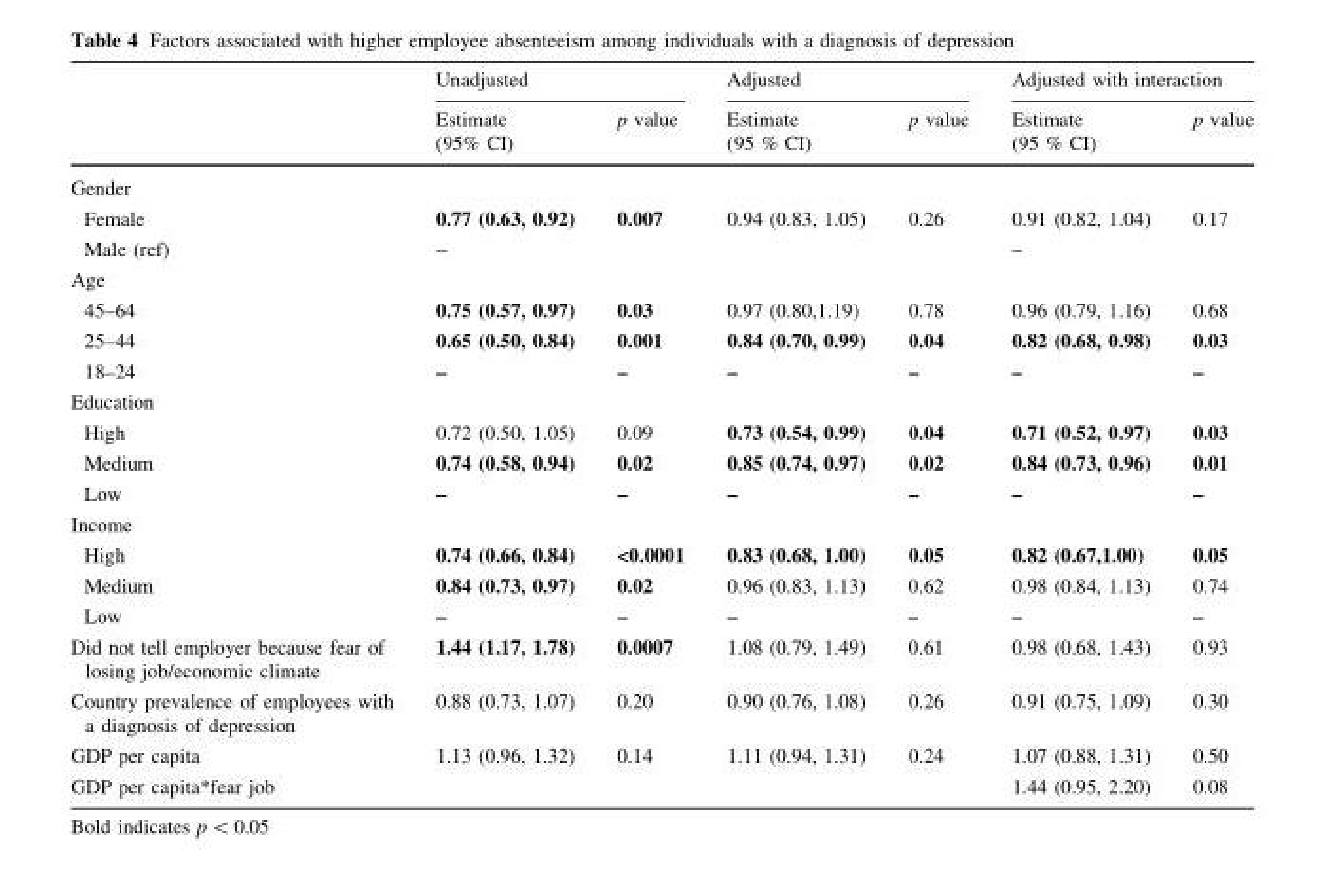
<table><thead><tr><td rowspan="2"></td><td colspan="2">Unadjusted</td><td colspan="2">Adjusted</td><td colspan="2">Adjusted with interaction</td></tr><tr><td>Estimate (95% CI)</td><td>p value</td><td>Estimate (95 % CI)</td><td>p value</td><td>Estimate (95 % CI)</td><td>p value</td></tr></thead><tbody><tr><td colspan="7">Gender</td></tr><tr><td>Female</td><td>0.77 (0.63, 0.92)</td><td>0.007</td><td>0.94 (0.83, 1.05)</td><td>0.26</td><td>0.91 (0.82, 1.04)</td><td>0.17</td></tr><tr><td>Male (ref)</td><td>–</td><td></td><td></td><td></td><td>–</td><td></td></tr><tr><td colspan="7">Age</td></tr><tr><td>45–64</td><td>0.75 (0.57, 0.97)</td><td>0.03</td><td>0.97 (0.80,1.19)</td><td>0.78</td><td>0.96 (0.79, 1.16)</td><td>0.68</td></tr><tr><td>25–44</td><td>0.65 (0.50, 0.84)</td><td>0.001</td><td>0.84 (0.70, 0.99)</td><td>0.04</td><td>0.82 (0.68, 0.98)</td><td>0.03</td></tr><tr><td>18–24</td><td>–</td><td>–</td><td>–</td><td>–</td><td>–</td><td>–</td></tr><tr><td colspan="7">Education</td></tr><tr><td>High</td><td>0.72 (0.50, 1.05)</td><td>0.09</td><td>0.73 (0.54, 0.99)</td><td>0.04</td><td>0.71 (0.52, 0.97)</td><td>0.03</td></tr><tr><td>Medium</td><td>0.74 (0.58, 0.94)</td><td>0.02</td><td>0.85 (0.74, 0.97)</td><td>0.02</td><td>0.84 (0.73, 0.96)</td><td>0.01</td></tr><tr><td>Low</td><td>–</td><td>–</td><td>–</td><td>–</td><td>–</td><td>–</td></tr><tr><td colspan="7">Income</td></tr><tr><td>High</td><td>0.74 (0.66, 0.84)</td><td>&lt;0.0001</td><td>0.83 (0.68, 1.00)</td><td>0.05</td><td>0.82 (0.67,1.00)</td><td>0.05</td></tr><tr><td>Medium</td><td>0.84 (0.73, 0.97)</td><td>0.02</td><td>0.96 (0.83, 1.13)</td><td>0.62</td><td>0.98 (0.84, 1.13)</td><td>0.74</td></tr><tr><td>Low</td><td>–</td><td>–</td><td>–</td><td>–</td><td>–</td><td>–</td></tr><tr><td>Did not tell employer because fear of losing job/economic climate</td><td>1.44 (1.17, 1.78)</td><td>0.0007</td><td>1.08 (0.79, 1.49)</td><td>0.61</td><td>0.98 (0.68, 1.43)</td><td>0.93</td></tr><tr><td>Country prevalence of employees with a diagnosis of depression</td><td>0.88 (0.73, 1.07)</td><td>0.20</td><td>0.90 (0.76, 1.08)</td><td>0.26</td><td>0.91 (0.75, 1.09)</td><td>0.30</td></tr><tr><td>GDP per capita</td><td>1.13 (0.96, 1.32)</td><td>0.14</td><td>1.11 (0.94, 1.31)</td><td>0.24</td><td>1.07 (0.88, 1.31)</td><td>0.50</td></tr><tr><td>GDP per capita*fear job</td><td></td><td></td><td></td><td></td><td>1.44 (0.95, 2.20)</td><td>0.08</td></tr></tbody></table>